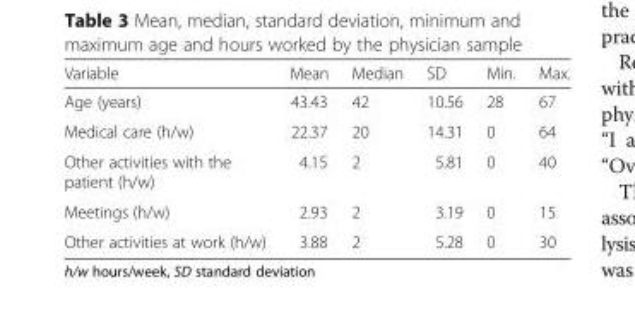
<table><thead><tr><td>Variable</td><td>Mean</td><td>Median</td><td>SD</td><td>Min.</td><td>Max.</td></tr></thead><tbody><tr><td>Age (years)</td><td>43.43</td><td>42</td><td>10.56</td><td>28</td><td>67</td></tr><tr><td>Medical care (h/w)</td><td>22.37</td><td>20</td><td>14.31</td><td>0</td><td>64</td></tr><tr><td>Other activities with the patient (h/w)</td><td>4.15</td><td>2</td><td>5.81</td><td>0</td><td>40</td></tr><tr><td>Meetings (h/w)</td><td>2.93</td><td>2</td><td>3.19</td><td>0</td><td>15</td></tr><tr><td>Other activities at work (h/w)</td><td>3.88</td><td>2</td><td>5.28</td><td>0</td><td>30</td></tr></tbody></table>